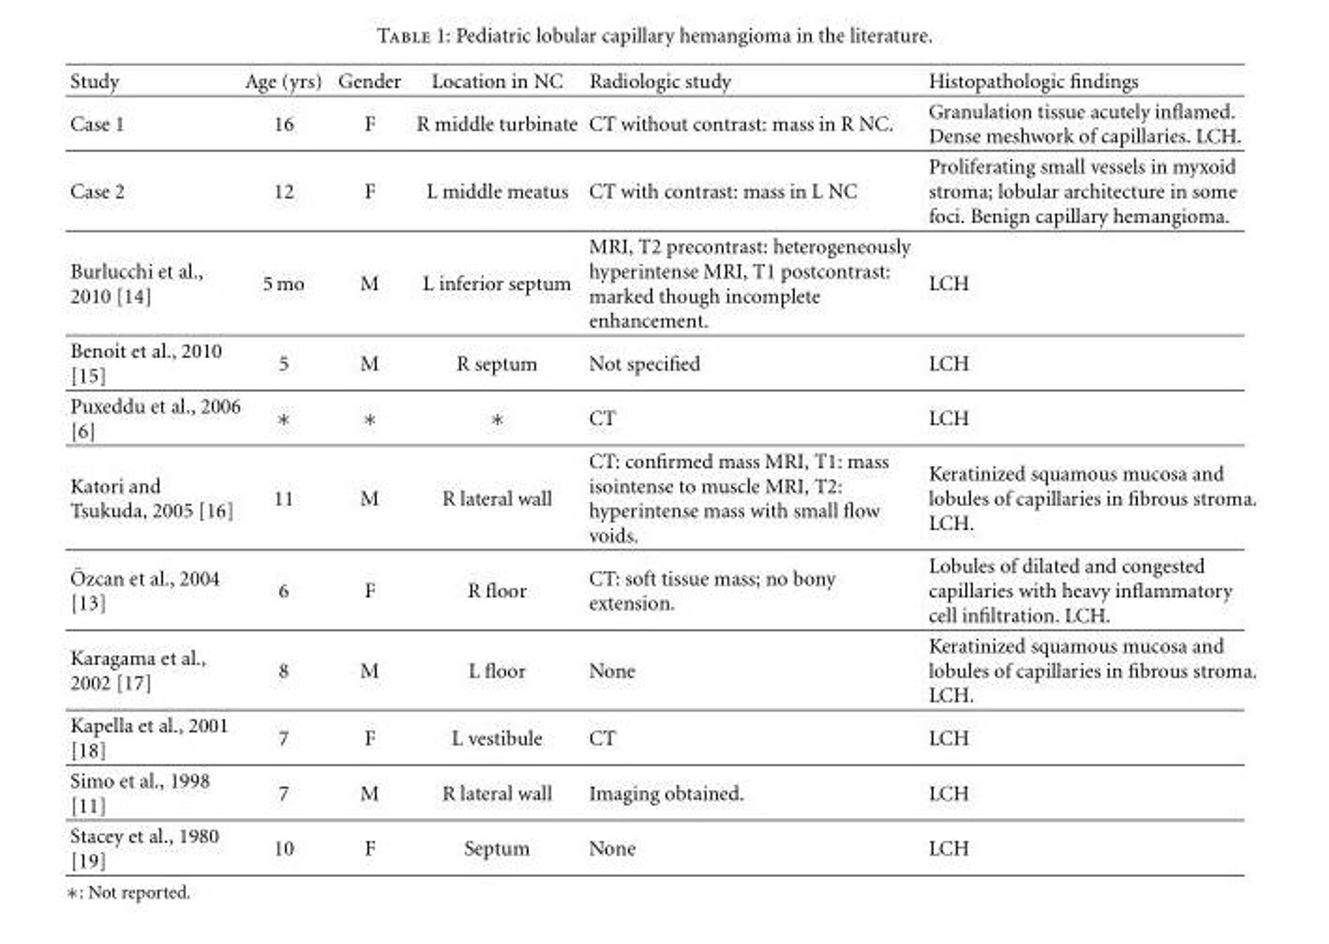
<table><thead><tr><td>Study</td><td>Age (yrs)</td><td>Gender</td><td>Location in NC</td><td>Radiologic study</td><td>Histopathologic findings</td></tr></thead><tbody><tr><td>Case 1</td><td>16</td><td>F</td><td>R middle turbinate</td><td>CT without contrast: mass in R NC.</td><td>Granulation tissue acutely inflamed. Dense meshwork of capillaries. LCH.</td></tr><tr><td>Case 2</td><td>12</td><td>F</td><td>L middle meatus</td><td>CT with contrast: mass in L NC</td><td>Proliferating small vessels in myxoid stroma; lobular architecture in some foci. Benign capillary hemangioma.</td></tr><tr><td>Burlucchi et al., 2010 [14]</td><td>5 mo</td><td>M</td><td>L inferior septum</td><td>MRI, T2 precontrast: heterogeneously hyperintense MRI, T1 postcontrast: marked though incomplete enhancement.</td><td>LCH</td></tr><tr><td>Benoit et al., 2010 [15]</td><td>5</td><td>M</td><td>R septum</td><td>Not specified</td><td>LCH</td></tr><tr><td>Puxeddu et al., 2006 [6]</td><td>∗</td><td>∗</td><td>∗</td><td>CT</td><td>LCH</td></tr><tr><td>Katori and Tsukuda, 2005 [16]</td><td>11</td><td>M</td><td>R lateral wall</td><td>CT: confirmed mass MRI, T1: mass isointense to muscle MRI, T2: hyperintense mass with small flow voids.</td><td>Keratinized squamous mucosa and lobules of capillaries in fibrous stroma. LCH.</td></tr><tr><td>¨Ozcan et al., 2004 [13]</td><td>6</td><td>F</td><td>R floor</td><td>CT: soft tissue mass; no bony extension.</td><td>Lobules of dilated and congested capillaries with heavy inflammatory cell infiltration. LCH.</td></tr><tr><td>Karagama et al., 2002 [17]</td><td>8</td><td>M</td><td>L floor</td><td>None</td><td>Keratinized squamous mucosa and lobules of capillaries in fibrous stroma. LCH.</td></tr><tr><td>Kapella et al., 2001 [18]</td><td>7</td><td>F</td><td>L vestibule</td><td>CT</td><td>LCH</td></tr><tr><td>Simo et al., 1998 [11]</td><td>7</td><td>M</td><td>R lateral wall</td><td>Imaging obtained.</td><td>LCH</td></tr><tr><td>Stacey et al., 1980 [19]</td><td>10</td><td>F</td><td>Septum</td><td>None</td><td>LCH</td></tr></tbody></table>